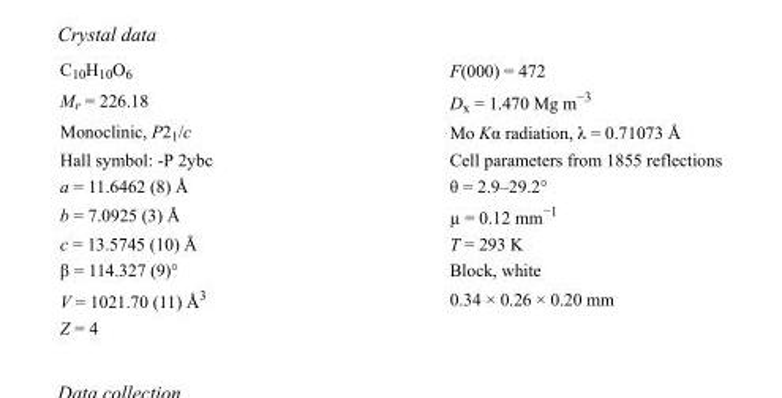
<table><tbody><tr><td>C<sub>10</sub>H<sub>10</sub>O<sub>6</sub></td><td>F(000) = 472</td></tr><tr><td>M<sub>r</sub> = 226.18</td><td>D<sub>x</sub> = 1.470 Mg m<sup>−3</sup></td></tr><tr><td>Monoclinic, P2<sub>1</sub>/c</td><td>Mo Kα radiation, λ = 0.71073 Å</td></tr><tr><td>Hall symbol: -P 2ybc</td><td>Cell parameters from 1855 reflections</td></tr><tr><td>a = 11.6462 (8) Å</td><td>θ = 2.9–29.2°</td></tr><tr><td>b = 7.0925 (3) Å</td><td>µ = 0.12 mm<sup>−1</sup></td></tr><tr><td>c = 13.5745 (10) Å</td><td>T = 293 K</td></tr><tr><td>β = 114.327 (9)°</td><td>Block, white</td></tr><tr><td>V = 1021.70 (11) Å<sup>3</sup></td><td>0.34 × 0.26 × 0.20 mm</td></tr><tr><td>Z = 4</td><td></td></tr></tbody></table>